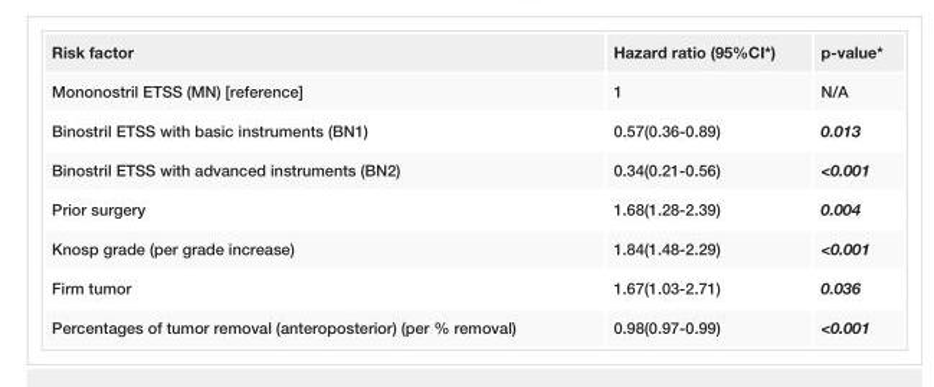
<table><tbody><tr><td>Risk factor</td><td>Hazard ratio (95%CI*)</td><td>p-value*</td></tr><tr><td>Mononostril ETSS (MN) [reference]</td><td>1</td><td>N/A</td></tr><tr><td>Binostril ETSS with basic instruments (BN1)</td><td>0.57(0.36-0.89)</td><td>0.013</td></tr><tr><td>Binostril ETSS with advanced instruments (BN2)</td><td>0.34(0.21-0.56)</td><td>&lt;0.001</td></tr><tr><td>Prior surgery</td><td>1.68(1.28-2.39)</td><td>0.004</td></tr><tr><td>Knosp grade (per grade increase)</td><td>1.84(1.48-2.29)</td><td>&lt;0.001</td></tr><tr><td>Firm tumor</td><td>1.67(1.03-2.71)</td><td>0.036</td></tr><tr><td>Percentages of tumor removal (anteroposterior) (per % removal)</td><td>0.98(0.97-0.99)</td><td>&lt;0.001</td></tr></tbody></table>